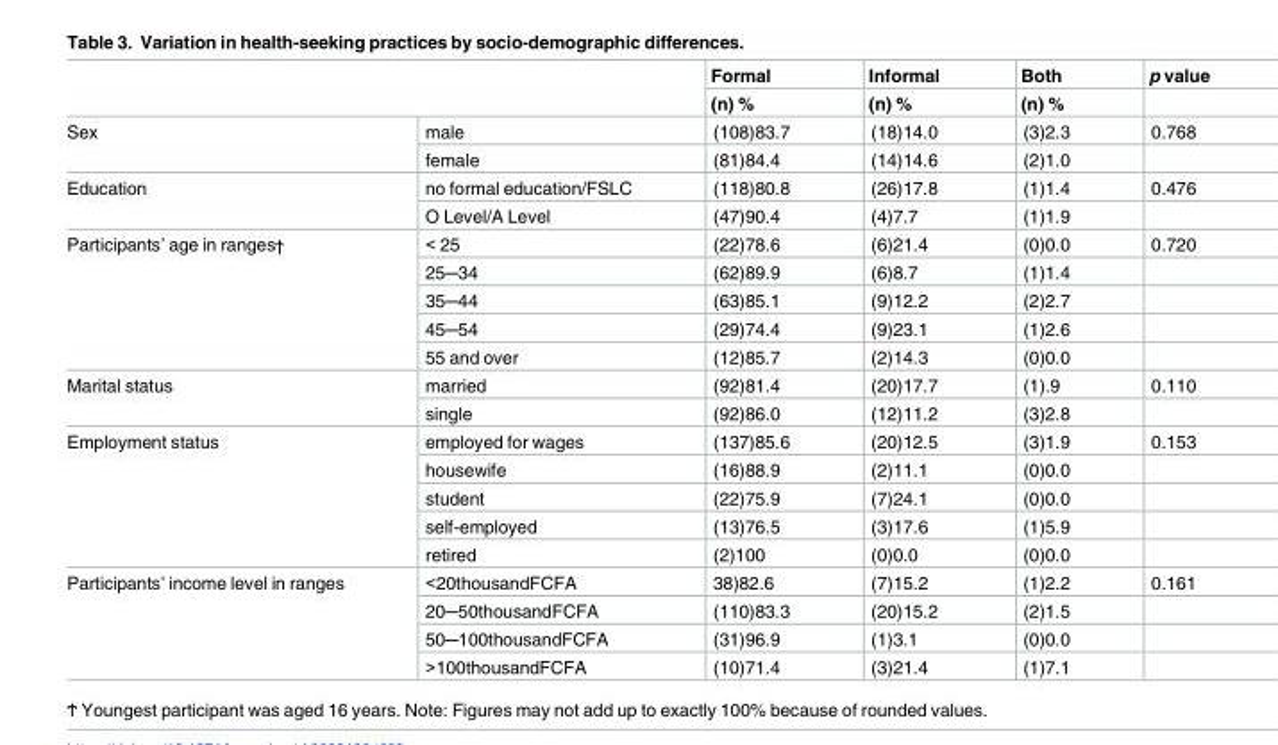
<table><thead><tr><td rowspan="2"></td><td rowspan="2"></td><td rowspan="2">Formal (n) %</td><td rowspan="2">Informal (n) %</td><td rowspan="2">Both (n) %</td><td rowspan="2">p value</td></tr><tr></tr></thead><tbody><tr><td rowspan="2">Sex</td><td>male</td><td>(108)83.7</td><td>(18)14.0</td><td>(3)2.3</td><td>0.768</td></tr><tr><td>female</td><td>(81)84.4</td><td>(14)14.6</td><td>(2)1.0</td><td></td></tr><tr><td rowspan="2">Education</td><td>no formal education/FSLC</td><td>(118)80.8</td><td>(26)17.8</td><td>(1)1.4</td><td>0.476</td></tr><tr><td>O Level/A Level</td><td>(47)90.4</td><td>(4)7.7</td><td>(1)1.9</td><td></td></tr><tr><td rowspan="5">Participants’ age in rangesϯ</td><td>&lt; 25</td><td>(22)78.6</td><td>(6)21.4</td><td>(0)0.0</td><td>0.720</td></tr><tr><td>25─34</td><td>(62)89.9</td><td>(6)8.7</td><td>(1)1.4</td><td></td></tr><tr><td>35─44</td><td>(63)85.1</td><td>(9)12.2</td><td>(2)2.7</td><td></td></tr><tr><td>45─54</td><td>(29)74.4</td><td>(9)23.1</td><td>(1)2.6</td><td></td></tr><tr><td>55 and over</td><td>(12)85.7</td><td>(2)14.3</td><td>(0)0.0</td><td></td></tr><tr><td rowspan="2">Marital status</td><td>married</td><td>(92)81.4</td><td>(20)17.7</td><td>(1).9</td><td>0.110</td></tr><tr><td>single</td><td>(92)86.0</td><td>(12)11.2</td><td>(3)2.8</td><td></td></tr><tr><td rowspan="5">Employment status</td><td>employed for wages</td><td>(137)85.6</td><td>(20)12.5</td><td>(3)1.9</td><td>0.153</td></tr><tr><td>housewife</td><td>(16)88.9</td><td>(2)11.1</td><td>(0)0.0</td><td></td></tr><tr><td>student</td><td>(22)75.9</td><td>(7)24.1</td><td>(0)0.0</td><td></td></tr><tr><td>self-employed</td><td>(13)76.5</td><td>(3)17.6</td><td>(1)5.9</td><td></td></tr><tr><td>retired</td><td>(2)100</td><td>(0)0.0</td><td>(0)0.0</td><td></td></tr><tr><td rowspan="4">Participants’ income level in ranges</td><td>&lt;20thousandFCFA</td><td>38)82.6</td><td>(7)15.2</td><td>(1)2.2</td><td>0.161</td></tr><tr><td>20─50thousandFCFA</td><td>(110)83.3</td><td>(20)15.2</td><td>(2)1.5</td><td></td></tr><tr><td>50─100thousandFCFA</td><td>(31)96.9</td><td>(1)3.1</td><td>(0)0.0</td><td></td></tr><tr><td>&gt;100thousandFCFA</td><td>(10)71.4</td><td>(3)21.4</td><td>(1)7.1</td><td></td></tr></tbody></table>